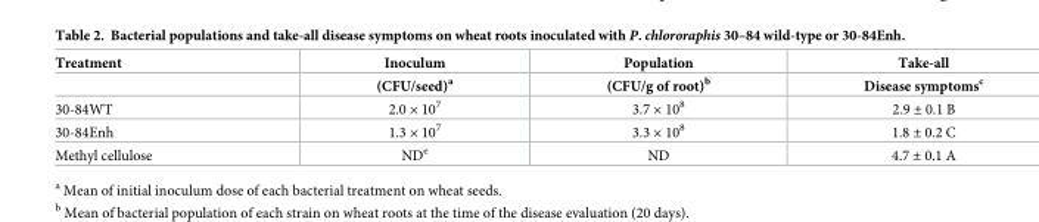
<table><thead><tr><td rowspan="2">Treatment</td><td rowspan="2">Inoculum (CFU/seed)<sup>a</sup></td><td rowspan="2">Population (CFU/g of root)<sup>b</sup></td><td rowspan="2">Take-all Disease symptoms<sup>c</sup></td></tr><tr></tr></thead><tbody><tr><td>30-84WT</td><td>2.0 × 10<sup>7</sup></td><td>3.7 × 10<sup>8</sup></td><td>2.9 ± 0.1 B</td></tr><tr><td>30-84Enh</td><td>1.3 × 10<sup>7</sup></td><td>3.3 × 10<sup>8</sup></td><td>1.8 ± 0.2 C</td></tr><tr><td>Methyl cellulose</td><td>ND<sup>e</sup></td><td>ND</td><td>4.7 ± 0.1 A</td></tr></tbody></table>